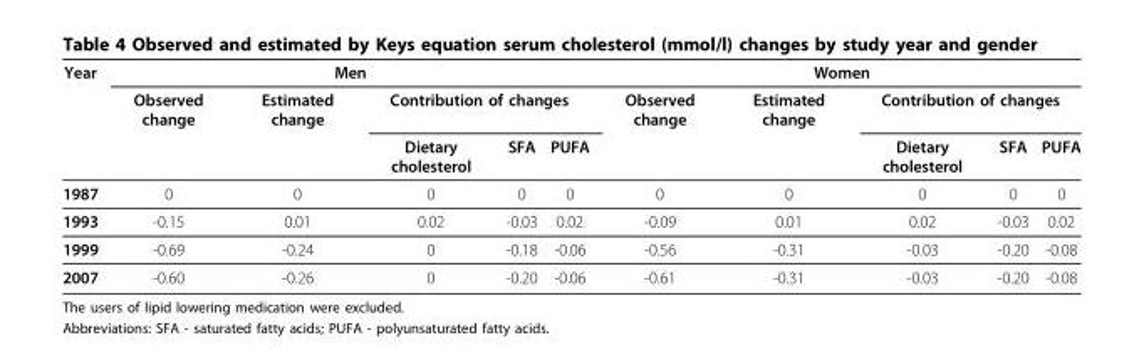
<table><thead><tr><td rowspan="3">Year</td><td colspan="5">Men</td><td colspan="5">Women</td></tr><tr><td rowspan="2">Observed change</td><td rowspan="2">Estimated change</td><td colspan="3">Contribution of changes</td><td rowspan="2">Observed change</td><td rowspan="2">Estimated change</td><td colspan="3">Contribution of changes</td></tr><tr><td>Dietary cholesterol</td><td>SFA</td><td>PUFA</td><td>Dietary cholesterol</td><td>SFA</td><td>PUFA</td></tr></thead><tbody><tr><td>1987</td><td>0</td><td>0</td><td>0</td><td>0</td><td>0</td><td>0</td><td>0</td><td>0</td><td>0</td><td>0</td></tr><tr><td>1993</td><td>-0.15</td><td>0.01</td><td>0.02</td><td>-0.03</td><td>0.02</td><td>-0.09</td><td>0.01</td><td>0.02</td><td>-0.03</td><td>0.02</td></tr><tr><td>1999</td><td>-0.69</td><td>-0.24</td><td>0</td><td>-0.18</td><td>-0.06</td><td>-0.56</td><td>-0.31</td><td>-0.03</td><td>-0.20</td><td>-0.08</td></tr><tr><td>2007</td><td>-0.60</td><td>-0.26</td><td>0</td><td>-0.20</td><td>-0.06</td><td>-0.61</td><td>-0.31</td><td>-0.03</td><td>-0.20</td><td>-0.08</td></tr></tbody></table>